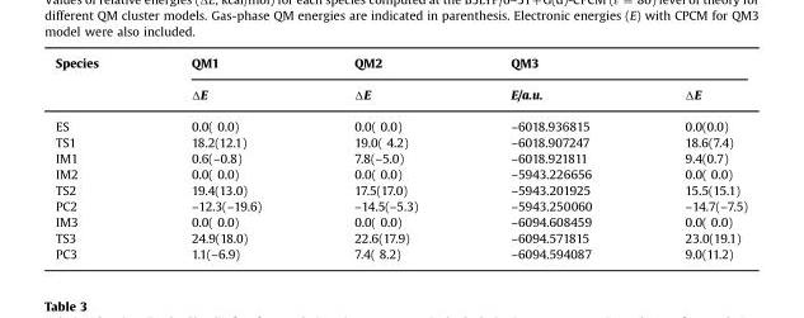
<table><thead><tr><td rowspan="2">Species</td><td rowspan="2">QM1 ΔE</td><td rowspan="2">QM2 ΔE</td><td colspan="2">QM3</td></tr><tr><td>E/a.u.</td><td>ΔE</td></tr></thead><tbody><tr><td>ES</td><td>0.0( 0.0)</td><td>0.0( 0.0)</td><td>–6018.936815</td><td>0.0(0.0)</td></tr><tr><td>TS1</td><td>18.2(12.1)</td><td>19.0( 4.2)</td><td>–6018.907247</td><td>18.6(7.4)</td></tr><tr><td>IM1</td><td>0.6(–0.8)</td><td>7.8(–5.0)</td><td>–6018.921811</td><td>9.4(0.7)</td></tr><tr><td>IM2</td><td>0.0( 0.0)</td><td>0.0( 0.0)</td><td>–5943.226656</td><td>0.0( 0.0)</td></tr><tr><td>TS2</td><td>19.4(13.0)</td><td>17.5(17.0)</td><td>–5943.201925</td><td>15.5(15.1)</td></tr><tr><td>PC2</td><td>–12.3(–19.6)</td><td>–14.5(–5.3)</td><td>–5943.250060</td><td>–14.7(–7.5)</td></tr><tr><td>IM3</td><td>0.0( 0.0)</td><td>0.0( 0.0)</td><td>–6094.608459</td><td>0.0( 0.0)</td></tr><tr><td>TS3</td><td>24.9(18.0)</td><td>22.6(17.9)</td><td>–6094.571815</td><td>23.0(19.1)</td></tr><tr><td>PC3</td><td>1.1(–6.9)</td><td>7.4( 8.2)</td><td>–6094.594087</td><td>9.0(11.2)</td></tr></tbody></table>